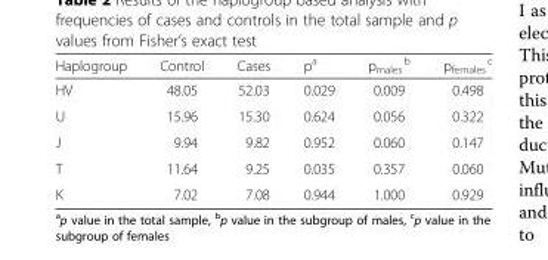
<table><thead><tr><td>Haplogroup</td><td>Control</td><td>Cases</td><td>p<sup>a</sup></td><td>p<sub>males</sub> <sup>b</sup></td><td>p<sub>females</sub> <sup>c</sup></td></tr></thead><tbody><tr><td>HV</td><td>48.05</td><td>52.03</td><td>0.029</td><td>0.009</td><td>0.498</td></tr><tr><td>U</td><td>15.96</td><td>15.30</td><td>0.624</td><td>0.056</td><td>0.322</td></tr><tr><td>J</td><td>9.94</td><td>9.82</td><td>0.952</td><td>0.060</td><td>0.147</td></tr><tr><td>T</td><td>11.64</td><td>9.25</td><td>0.035</td><td>0.357</td><td>0.060</td></tr><tr><td>K</td><td>7.02</td><td>7.08</td><td>0.944</td><td>1.000</td><td>0.929</td></tr></tbody></table>